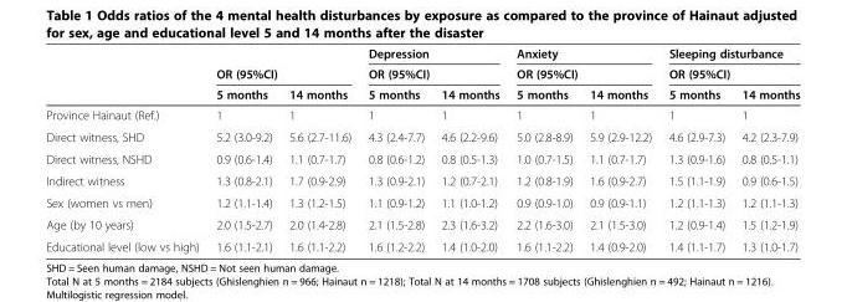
<table><thead><tr><td rowspan="3"></td><td></td><td></td><td rowspan="2" colspan="2">Depression OR (95%CI)</td><td rowspan="2" colspan="2">Anxiety OR (95%CI)</td><td rowspan="2" colspan="2">Sleeping disturbance OR (95%CI)</td></tr><tr><td colspan="2">OR (95%CI)</td></tr><tr><td>5 months</td><td>14 months</td><td>5 months</td><td>14 months</td><td>5 months</td><td>14 months</td><td>5 months</td><td>14 months</td></tr></thead><tbody><tr><td>Province Hainaut (Ref.)</td><td>1</td><td>1</td><td>1</td><td>1</td><td>1</td><td>1</td><td>1</td><td>1</td></tr><tr><td>Direct witness, SHD</td><td>5.2 (3.0-9.2)</td><td>5.6 (2.7-11.6)</td><td>4.3 (2.4-7.7)</td><td>4.6 (2.2-9.6)</td><td>5.0 (2.8-8.9)</td><td>5.9 (2.9-12.2)</td><td>4.6 (2.9-7.3)</td><td>4.2 (2.3-7.9)</td></tr><tr><td>Direct witness, NSHD</td><td>0.9 (0.6-1.4)</td><td>1.1 (0.7-1.7)</td><td>0.8 (0.6-1.2)</td><td>0.8 (0.5-1.3)</td><td>1.0 (0.7-1.5)</td><td>1.1 (0.7-1.7)</td><td>1.3 (0.9-1.6)</td><td>0.8 (0.5-1.1)</td></tr><tr><td>Indirect witness</td><td>1.3 (0.8-2.1)</td><td>1.7 (0.9-2.9)</td><td>1.3 (0.9-2.1)</td><td>1.2 (0.7-2.1)</td><td>1.2 (0.8-1.9)</td><td>1.6 (0.9-2.7)</td><td>1.5 (1.1-1.9)</td><td>0.9 (0.6-1.5)</td></tr><tr><td>Sex (women vs men)</td><td>1.2 (1.1-1.4)</td><td>1.3 (1.2-1.5)</td><td>1.1 (0.9-1.2)</td><td>1.1 (1.0-1.2)</td><td>0.9 (0.9-1.0)</td><td>0.9 (0.9-1.1)</td><td>1.2 (1.1-1.3)</td><td>1.2 (1.1-1.3)</td></tr><tr><td>Age (by 10 years)</td><td>2.0 (1.5-2.7)</td><td>2.0 (1.4-2.8)</td><td>2.1 (1.5-2.8)</td><td>2.3 (1.6-3.2)</td><td>2.2 (1.6-3.0)</td><td>2.1 (1.5-3.0)</td><td>1.2 (0.9-1.4)</td><td>1.5 (1.2-1.9)</td></tr><tr><td>Educational level (low vs high)</td><td>1.6 (1.1-2.1)</td><td>1.6 (1.1-2.2)</td><td>1.6 (1.2-2.2)</td><td>1.4 (1.0-2.0)</td><td>1.6 (1.1-2.2)</td><td>1.4 (0.9-2.0)</td><td>1.4 (1.1-1.7)</td><td>1.3 (1.0-1.7)</td></tr></tbody></table>